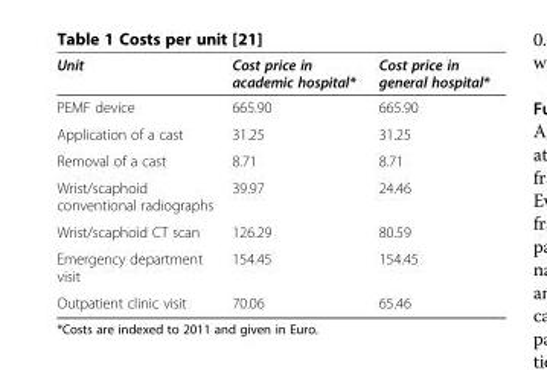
<table><thead><tr><td>Unit</td><td>Cost price in academic hospital*</td><td>Cost price in general hospital*</td></tr></thead><tbody><tr><td>PEMF device</td><td>665.90</td><td>665.90</td></tr><tr><td>Application of a cast</td><td>31.25</td><td>31.25</td></tr><tr><td>Removal of a cast</td><td>8.71</td><td>8.71</td></tr><tr><td>Wrist/scaphoid conventional radiographs</td><td>39.97</td><td>24.46</td></tr><tr><td>Wrist/scaphoid CT scan</td><td>126.29</td><td>80.59</td></tr><tr><td>Emergency department visit</td><td>154.45</td><td>154.45</td></tr><tr><td>Outpatient clinic visit</td><td>70.06</td><td>65.46</td></tr></tbody></table>